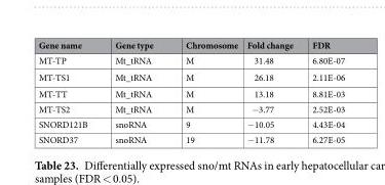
<table><thead><tr><td>Gene name</td><td>Gene type</td><td>Chromosome</td><td>Fold change</td><td>FDR</td></tr></thead><tbody><tr><td>MT-TP</td><td>Mt_tRNA</td><td>M</td><td>31.48</td><td>6.80E-07</td></tr><tr><td>MT-TS1</td><td>Mt_tRNA</td><td>M</td><td>26.18</td><td>2.11E-06</td></tr><tr><td>MT-TT</td><td>Mt_tRNA</td><td>M</td><td>13.18</td><td>8.81E-03</td></tr><tr><td>MT-TS2</td><td>Mt_tRNA</td><td>M</td><td>−3.77</td><td>2.52E-03</td></tr><tr><td>SNORD121B</td><td>snoRNA</td><td>9</td><td>−10.05</td><td>4.43E-04</td></tr><tr><td>SNORD37</td><td>snoRNA</td><td>19</td><td>−11.78</td><td>6.27E-05</td></tr></tbody></table>